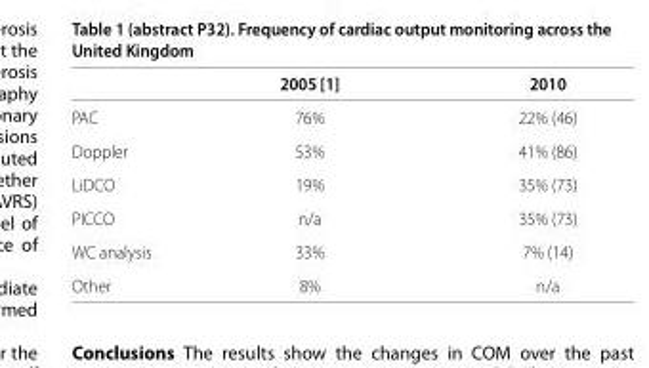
<table><thead><tr><td></td><td>2005 [1]</td><td>2010</td></tr></thead><tbody><tr><td>PAC</td><td>76%</td><td>22% (46)</td></tr><tr><td>Doppler</td><td>53%</td><td>41% (86)</td></tr><tr><td>LiDCO</td><td>19%</td><td>35% (73)</td></tr><tr><td>PICCO</td><td>n/a</td><td>35% (73)</td></tr><tr><td>WC analysis</td><td>33%</td><td>7% (14)</td></tr><tr><td>Other</td><td>8%</td><td>n/a</td></tr></tbody></table>